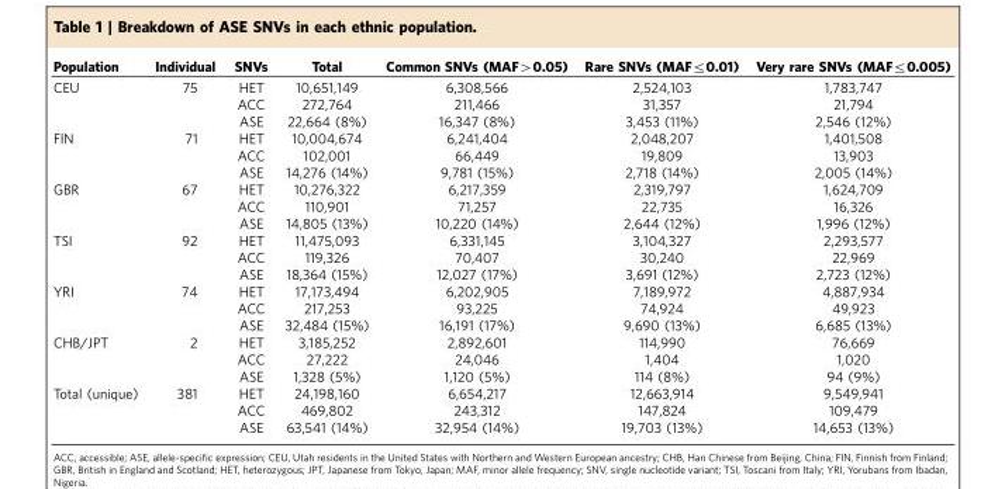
<table><thead><tr><td>Population</td><td>Individual</td><td>SNVs</td><td>Total</td><td>Common SNVs (MAF&gt;0.05)</td><td>Rare SNVs (MAF≤0.01)</td><td>Very rare SNVs (MAF≤0.005)</td></tr></thead><tbody><tr><td rowspan="3">CEU</td><td>75</td><td>HET</td><td>10,651,149</td><td>6,308,566</td><td>2,524,103</td><td>1,783,747</td></tr><tr><td></td><td>ACC</td><td>272,764</td><td>211,466</td><td>31,357</td><td>21,794</td></tr><tr><td></td><td>ASE</td><td>22,664 (8%)</td><td>16,347 (8%)</td><td>3,453 (11%)</td><td>2,546 (12%)</td></tr><tr><td rowspan="3">FIN</td><td>71</td><td>HET</td><td>10,004,674</td><td>6,241,404</td><td>2,048,207</td><td>1,401,508</td></tr><tr><td></td><td>ACC</td><td>102,001</td><td>66,449</td><td>19,809</td><td>13,903</td></tr><tr><td></td><td>ASE</td><td>14,276 (14%)</td><td>9,781 (15%)</td><td>2,718 (14%)</td><td>2,005 (14%)</td></tr><tr><td rowspan="3">GBR</td><td>67</td><td>HET</td><td>10,276,322</td><td>6,217,359</td><td>2,319,797</td><td>1,624,709</td></tr><tr><td></td><td>ACC</td><td>110,901</td><td>71,257</td><td>22,735</td><td>16,326</td></tr><tr><td></td><td>ASE</td><td>14,805 (13%)</td><td>10,220 (14%)</td><td>2,644 (12%)</td><td>1,996 (12%)</td></tr><tr><td rowspan="3">TSI</td><td>92</td><td>HET</td><td>11,475,093</td><td>6,331,145</td><td>3,104,327</td><td>2,293,577</td></tr><tr><td></td><td>ACC</td><td>119,326</td><td>70,407</td><td>30,240</td><td>22,969</td></tr><tr><td></td><td>ASE</td><td>18,364 (15%)</td><td>12,027 (17%)</td><td>3,691 (12%)</td><td>2,723 (12%)</td></tr><tr><td rowspan="3">YRI</td><td>74</td><td>HET</td><td>17,173,494</td><td>6,202,905</td><td>7,189,972</td><td>4,887,934</td></tr><tr><td></td><td>ACC</td><td>217,253</td><td>93,225</td><td>74,924</td><td>49,923</td></tr><tr><td></td><td>ASE</td><td>32,484 (15%)</td><td>16,191 (17%)</td><td>9,690 (13%)</td><td>6,685 (13%)</td></tr><tr><td rowspan="3">CHB/JPT</td><td>2</td><td>HET</td><td>3,185,252</td><td>2,892,601</td><td>114,990</td><td>76,669</td></tr><tr><td></td><td>ACC</td><td>27,222</td><td>24,046</td><td>1,404</td><td>1,020</td></tr><tr><td></td><td>ASE</td><td>1,328 (5%)</td><td>1,120 (5%)</td><td>114 (8%)</td><td>94 (9%)</td></tr><tr><td rowspan="3">Total (unique)</td><td>381</td><td>HET</td><td>24,198,160</td><td>6,654,217</td><td>12,663,914</td><td>9,549,941</td></tr><tr><td></td><td>ACC</td><td>469,802</td><td>243,312</td><td>147,824</td><td>109,479</td></tr><tr><td></td><td>ASE</td><td>63,541 (14%)</td><td>32,954 (14%)</td><td>19,703 (13%)</td><td>14,653 (13%)</td></tr></tbody></table>